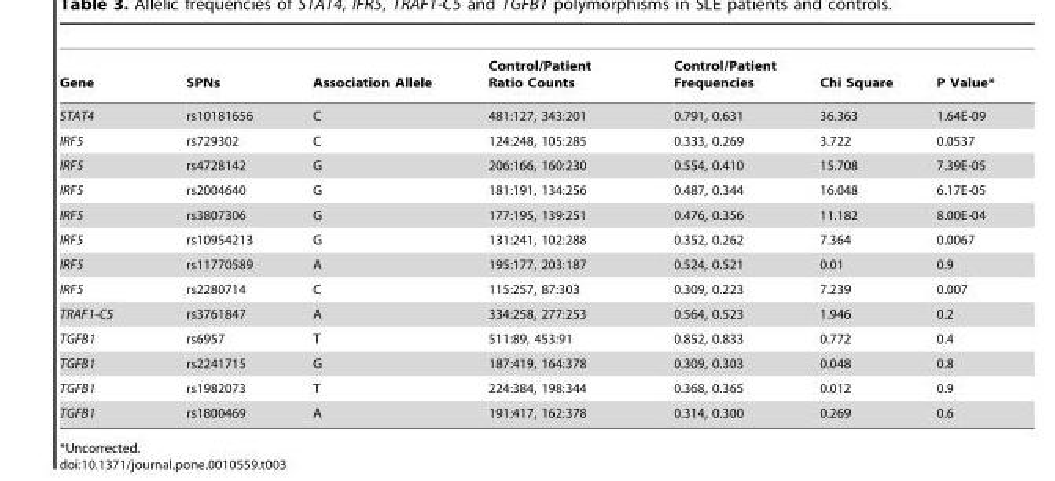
<table><thead><tr><td>Gene</td><td>SPNs</td><td>Association Allele</td><td>Control/Patient Ratio Counts</td><td>Control/Patient Frequencies</td><td>Chi Square</td><td>P Value*</td></tr></thead><tbody><tr><td>STAT4</td><td>rs10181656</td><td>C</td><td>481:127, 343:201</td><td>0.791, 0.631</td><td>36.363</td><td>1.64E-09</td></tr><tr><td>IRF5</td><td>rs729302</td><td>C</td><td>124:248, 105:285</td><td>0.333, 0.269</td><td>3.722</td><td>0.0537</td></tr><tr><td>IRF5</td><td>rs4728142</td><td>G</td><td>206:166, 160:230</td><td>0.554, 0.410</td><td>15.708</td><td>7.39E-05</td></tr><tr><td>IRF5</td><td>rs2004640</td><td>G</td><td>181:191, 134:256</td><td>0.487, 0.344</td><td>16.048</td><td>6.17E-05</td></tr><tr><td>IRF5</td><td>rs3807306</td><td>G</td><td>177:195, 139:251</td><td>0.476, 0.356</td><td>11.182</td><td>8.00E-04</td></tr><tr><td>IRF5</td><td>rs10954213</td><td>G</td><td>131:241, 102:288</td><td>0.352, 0.262</td><td>7.364</td><td>0.0067</td></tr><tr><td>IRF5</td><td>rs11770589</td><td>A</td><td>195:177, 203:187</td><td>0.524, 0.521</td><td>0.01</td><td>0.9</td></tr><tr><td>IRF5</td><td>rs2280714</td><td>C</td><td>115:257, 87:303</td><td>0.309, 0.223</td><td>7.239</td><td>0.007</td></tr><tr><td>TRAF1-C5</td><td>rs3761847</td><td>A</td><td>334:258, 277:253</td><td>0.564, 0.523</td><td>1.946</td><td>0.2</td></tr><tr><td>TGFB1</td><td>rs6957</td><td>T</td><td>511:89, 453:91</td><td>0.852, 0.833</td><td>0.772</td><td>0.4</td></tr><tr><td>TGFB1</td><td>rs2241715</td><td>G</td><td>187:419, 164:378</td><td>0.309, 0.303</td><td>0.048</td><td>0.8</td></tr><tr><td>TGFB1</td><td>rs1982073</td><td>T</td><td>224:384, 198:344</td><td>0.368, 0.365</td><td>0.012</td><td>0.9</td></tr><tr><td>TGFB1</td><td>rs1800469</td><td>A</td><td>191:417, 162:378</td><td>0.314, 0.300</td><td>0.269</td><td>0.6</td></tr></tbody></table>